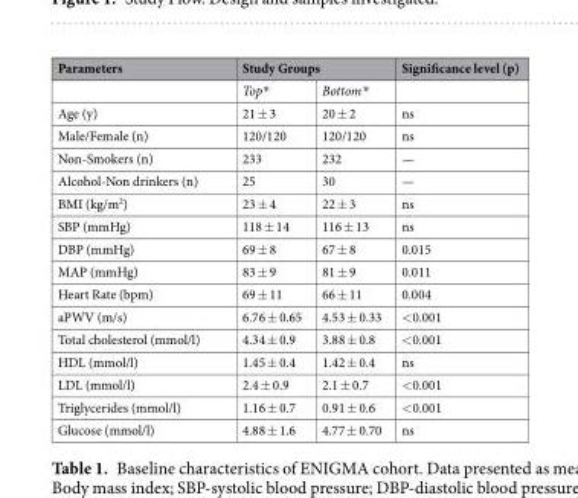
<table><thead><tr><td rowspan="2">Parameters</td><td colspan="2">Study Groups</td><td rowspan="2">Significance level (p)</td></tr><tr><td>Top*</td><td>Bottom*</td></tr></thead><tbody><tr><td>Age (y)</td><td>21 ± 3</td><td>20 ± 2</td><td>ns</td></tr><tr><td>Male/Female (n)</td><td>120/120</td><td>120/120</td><td>ns</td></tr><tr><td>Non-Smokers (n)</td><td>233</td><td>232</td><td>—</td></tr><tr><td>Alcohol-Non drinkers (n)</td><td>25</td><td>30</td><td>—</td></tr><tr><td>BMI (kg/m<sup>2</sup>)</td><td>23 ± 4</td><td>22 ± 3</td><td>ns</td></tr><tr><td>SBP (mmHg)</td><td>118 ± 14</td><td>116 ± 13</td><td>ns</td></tr><tr><td>DBP (mmHg)</td><td>69 ± 8</td><td>67 ± 8</td><td>0.015</td></tr><tr><td>MAP (mmHg)</td><td>83 ± 9</td><td>81 ± 9</td><td>0.011</td></tr><tr><td>Heart Rate (bpm)</td><td>69 ± 11</td><td>66 ± 11</td><td>0.004</td></tr><tr><td>aPWV (m/s)</td><td>6.76 ± 0.65</td><td>4.53 ± 0.33</td><td>&lt;0.001</td></tr><tr><td>Total cholesterol (mmol/l)</td><td>4.34 ± 0.9</td><td>3.88 ± 0.8</td><td>&lt;0.001</td></tr><tr><td>HDL (mmol/l)</td><td>1.45 ± 0.4</td><td>1.42 ± 0.4</td><td>ns</td></tr><tr><td>LDL (mmol/l)</td><td>2.4 ± 0.9</td><td>2.1 ± 0.7</td><td>&lt;0.001</td></tr><tr><td>Triglycerides (mmol/l)</td><td>1.16 ± 0.7</td><td>0.91 ± 0.6</td><td>&lt;0.001</td></tr><tr><td>Glucose (mmol/l)</td><td>4.88 ± 1.6</td><td>4.77 ± 0.70</td><td>ns</td></tr></tbody></table>